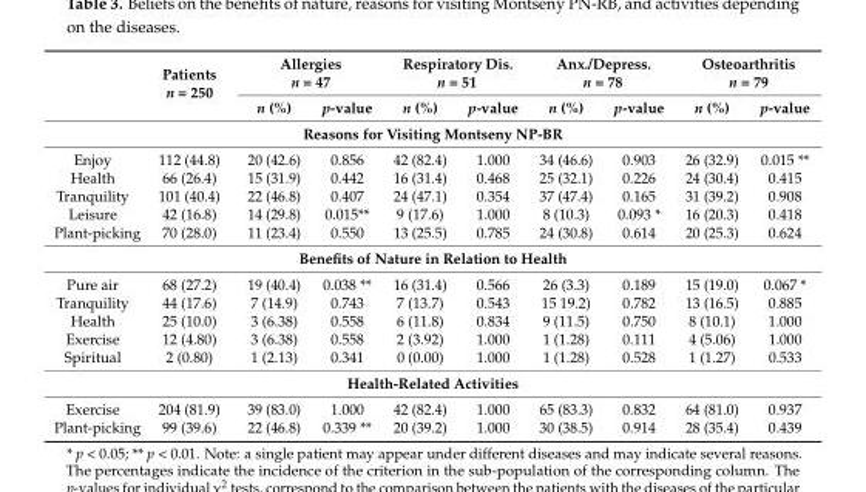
<table><thead><tr><td rowspan="2"></td><td rowspan="2">Patients n = 250</td><td colspan="2">Allergies n = 47</td><td colspan="2">Respiratory Dis. n = 51</td><td colspan="2">Anx./Depress. n = 78</td><td colspan="2">Osteoarthritis n = 79</td></tr><tr><td>n (%)</td><td>p-value</td><td>n (%)</td><td>p-value</td><td>n (%)</td><td>p-value</td><td>n (%)</td><td>p-value</td></tr></thead><tbody><tr><td colspan="10">Reasons for Visiting Montseny NP-BR</td></tr><tr><td>Enjoy</td><td>112 (44.8)</td><td>20 (42.6)</td><td>0.856</td><td>42 (82.4)</td><td>1.000</td><td>34 (46.6)</td><td>0.903</td><td>26 (32.9)</td><td>0.015 **</td></tr><tr><td>Health</td><td>66 (26.4)</td><td>15 (31.9)</td><td>0.442</td><td>16 (31.4)</td><td>0.468</td><td>25 (32.1)</td><td>0.226</td><td>24 (30.4)</td><td>0.415</td></tr><tr><td>Tranquility</td><td>101 (40.4)</td><td>22 (46.8)</td><td>0.407</td><td>24 (47.1)</td><td>0.354</td><td>37 (47.4)</td><td>0.165</td><td>31 (39.2)</td><td>0.908</td></tr><tr><td>Leisure</td><td>42 (16.8)</td><td>14 (29.8)</td><td>0.015**</td><td>9 (17.6)</td><td>1.000</td><td>8 (10.3)</td><td>0.093 *</td><td>16 (20.3)</td><td>0.418</td></tr><tr><td>Plant-picking</td><td>70 (28.0)</td><td>11 (23.4)</td><td>0.550</td><td>13 (25.5)</td><td>0.785</td><td>24 (30.8)</td><td>0.614</td><td>20 (25.3)</td><td>0.624</td></tr><tr><td colspan="10">Benefits of Nature in Relation to Health</td></tr><tr><td>Pure air</td><td>68 (27.2)</td><td>19 (40.4)</td><td>0.038 **</td><td>16 (31.4)</td><td>0.566</td><td>26 (3.3)</td><td>0.189</td><td>15 (19.0)</td><td>0.067 *</td></tr><tr><td>Tranquility</td><td>44 (17.6)</td><td>7 (14.9)</td><td>0.743</td><td>7 (13.7)</td><td>0.543</td><td>15 19.2)</td><td>0.782</td><td>13 (16.5)</td><td>0.885</td></tr><tr><td>Health</td><td>25 (10.0)</td><td>3 (6.38)</td><td>0.558</td><td>6 (11.8)</td><td>0.834</td><td>9 (11.5)</td><td>0.750</td><td>8 (10.1)</td><td>1.000</td></tr><tr><td>Exercise</td><td>12 (4.80)</td><td>3 (6.38)</td><td>0.558</td><td>2 (3.92)</td><td>1.000</td><td>1 (1.28)</td><td>0.111</td><td>4 (5.06)</td><td>1.000</td></tr><tr><td>Spiritual</td><td>2 (0.80)</td><td>1 (2.13)</td><td>0.341</td><td>0 (0.00)</td><td>1.000</td><td>1 (1.28)</td><td>0.528</td><td>1 (1.27)</td><td>0.533</td></tr><tr><td colspan="10">Health-Related Activities</td></tr><tr><td>Exercise</td><td>204 (81.9)</td><td>39 (83.0)</td><td>1.000</td><td>42 (82.4)</td><td>1.000</td><td>65 (83.3)</td><td>0.832</td><td>64 (81.0)</td><td>0.937</td></tr><tr><td>Plant-picking</td><td>99 (39.6)</td><td>22 (46.8)</td><td>0.339 **</td><td>20 (39.2)</td><td>1.000</td><td>30 (38.5)</td><td>0.914</td><td>28 (35.4)</td><td>0.439</td></tr></tbody></table>